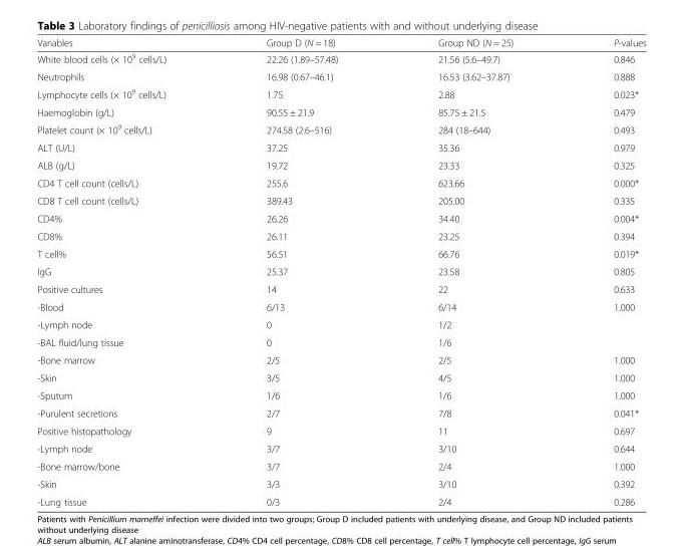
<table><thead><tr><td>Variables</td><td>Group D (N = 18)</td><td>Group ND (N = 25)</td><td>P-values</td></tr></thead><tbody><tr><td>White blood cells (× 10<sup>9</sup> cells/L)</td><td>22.26 (1.89–57.48)</td><td>21.56 (5.6–49.7)</td><td>0.846</td></tr><tr><td>Neutrophils</td><td>16.98 (0.67–46.1)</td><td>16.53 (3.62–37.87)</td><td>0.888</td></tr><tr><td>Lymphocyte cells (× 10<sup>9</sup> cells/L)</td><td>1.75</td><td>2.88</td><td>0.023*</td></tr><tr><td>Haemoglobin (g/L)</td><td>90.55 ± 21.9</td><td>85.75 ± 21.5</td><td>0.479</td></tr><tr><td>Platelet count (× 10<sup>9</sup> cells/L)</td><td>274.58 (2.6–516)</td><td>284 (18–644)</td><td>0.493</td></tr><tr><td>ALT (U/L)</td><td>37.25</td><td>35.36</td><td>0.979</td></tr><tr><td>ALB (g/L)</td><td>19.72</td><td>23.33</td><td>0.325</td></tr><tr><td>CD4 T cell count (cells/L)</td><td>255.6</td><td>623.66</td><td>0.000*</td></tr><tr><td>CD8 T cell count (cells/L)</td><td>389.43</td><td>205.00</td><td>0.335</td></tr><tr><td>CD4%</td><td>26.26</td><td>34.40</td><td>0.004*</td></tr><tr><td>CD8%</td><td>26.11</td><td>23.25</td><td>0.394</td></tr><tr><td>T cell%</td><td>56.51</td><td>66.76</td><td>0.019*</td></tr><tr><td>IgG</td><td>25.37</td><td>23.58</td><td>0.805</td></tr><tr><td>Positive cultures</td><td>14</td><td>22</td><td>0.633</td></tr><tr><td>-Blood</td><td>6/13</td><td>6/14</td><td>1.000</td></tr><tr><td>-Lymph node</td><td>0</td><td>1/2</td><td></td></tr><tr><td>-BAL fluid/lung tissue</td><td>0</td><td>1/6</td><td></td></tr><tr><td>-Bone marrow</td><td>2/5</td><td>2/5</td><td>1.000</td></tr><tr><td>-Skin</td><td>3/5</td><td>4/5</td><td>1.000</td></tr><tr><td>-Sputum</td><td>1/6</td><td>1/6</td><td>1.000</td></tr><tr><td>-Purulent secretions</td><td>2/7</td><td>7/8</td><td>0.041*</td></tr><tr><td>Positive histopathology</td><td>9</td><td>11</td><td>0.697</td></tr><tr><td>-Lymph node</td><td>3/7</td><td>3/10</td><td>0.644</td></tr><tr><td>-Bone marrow/bone</td><td>3/7</td><td>2/4</td><td>1.000</td></tr><tr><td>-Skin</td><td>3/3</td><td>3/10</td><td>0.392</td></tr><tr><td>-Lung tissue</td><td>0/3</td><td>2/4</td><td>0.286</td></tr></tbody></table>